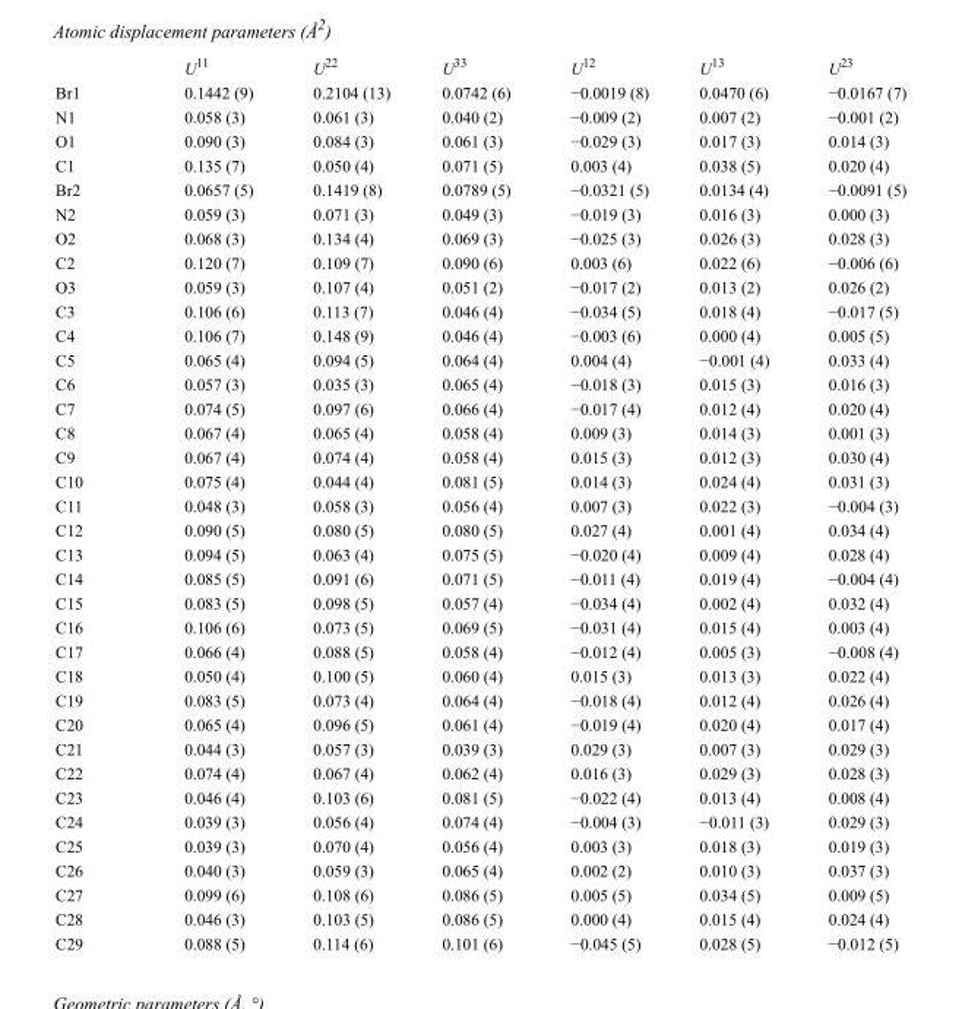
<table><thead><tr><td></td><td>U<sup>11</sup></td><td>U<sup>22</sup></td><td>U<sup>33</sup></td><td>U<sup>12</sup></td><td>U<sup>13</sup></td><td>U<sup>23</sup></td></tr></thead><tbody><tr><td>Br1</td><td>0.1442 (9)</td><td>0.2104 (13)</td><td>0.0742 (6)</td><td>−0.0019 (8)</td><td>0.0470 (6)</td><td>−0.0167 (7)</td></tr><tr><td>N1</td><td>0.058 (3)</td><td>0.061 (3)</td><td>0.040 (2)</td><td>−0.009 (2)</td><td>0.007 (2)</td><td>−0.001 (2)</td></tr><tr><td>O1</td><td>0.090 (3)</td><td>0.084 (3)</td><td>0.061 (3)</td><td>−0.029 (3)</td><td>0.017 (3)</td><td>0.014 (3)</td></tr><tr><td>C1</td><td>0.135 (7)</td><td>0.050 (4)</td><td>0.071 (5)</td><td>0.003 (4)</td><td>0.038 (5)</td><td>0.020 (4)</td></tr><tr><td>Br2</td><td>0.0657 (5)</td><td>0.1419 (8)</td><td>0.0789 (5)</td><td>−0.0321 (5)</td><td>0.0134 (4)</td><td>−0.0091 (5)</td></tr><tr><td>N2</td><td>0.059 (3)</td><td>0.071 (3)</td><td>0.049 (3)</td><td>−0.019 (3)</td><td>0.016 (3)</td><td>0.000 (3)</td></tr><tr><td>O2</td><td>0.068 (3)</td><td>0.134 (4)</td><td>0.069 (3)</td><td>−0.025 (3)</td><td>0.026 (3)</td><td>0.028 (3)</td></tr><tr><td>C2</td><td>0.120 (7)</td><td>0.109 (7)</td><td>0.090 (6)</td><td>0.003 (6)</td><td>0.022 (6)</td><td>−0.006 (6)</td></tr><tr><td>O3</td><td>0.059 (3)</td><td>0.107 (4)</td><td>0.051 (2)</td><td>−0.017 (2)</td><td>0.013 (2)</td><td>0.026 (2)</td></tr><tr><td>C3</td><td>0.106 (6)</td><td>0.113 (7)</td><td>0.046 (4)</td><td>−0.034 (5)</td><td>0.018 (4)</td><td>−0.017 (5)</td></tr><tr><td>C4</td><td>0.106 (7)</td><td>0.148 (9)</td><td>0.046 (4)</td><td>−0.003 (6)</td><td>0.000 (4)</td><td>0.005 (5)</td></tr><tr><td>C5</td><td>0.065 (4)</td><td>0.094 (5)</td><td>0.064 (4)</td><td>0.004 (4)</td><td>−0.001 (4)</td><td>0.033 (4)</td></tr><tr><td>C6</td><td>0.057 (3)</td><td>0.035 (3)</td><td>0.065 (4)</td><td>−0.018 (3)</td><td>0.015 (3)</td><td>0.016 (3)</td></tr><tr><td>C7</td><td>0.074 (5)</td><td>0.097 (6)</td><td>0.066 (4)</td><td>−0.017 (4)</td><td>0.012 (4)</td><td>0.020 (4)</td></tr><tr><td>C8</td><td>0.067 (4)</td><td>0.065 (4)</td><td>0.058 (4)</td><td>0.009 (3)</td><td>0.014 (3)</td><td>0.001 (3)</td></tr><tr><td>C9</td><td>0.067 (4)</td><td>0.074 (4)</td><td>0.058 (4)</td><td>0.015 (3)</td><td>0.012 (3)</td><td>0.030 (4)</td></tr><tr><td>C10</td><td>0.075 (4)</td><td>0.044 (4)</td><td>0.081 (5)</td><td>0.014 (3)</td><td>0.024 (4)</td><td>0.031 (3)</td></tr><tr><td>C11</td><td>0.048 (3)</td><td>0.058 (3)</td><td>0.056 (4)</td><td>0.007 (3)</td><td>0.022 (3)</td><td>−0.004 (3)</td></tr><tr><td>C12</td><td>0.090 (5)</td><td>0.080 (5)</td><td>0.080 (5)</td><td>0.027 (4)</td><td>0.001 (4)</td><td>0.034 (4)</td></tr><tr><td>C13</td><td>0.094 (5)</td><td>0.063 (4)</td><td>0.075 (5)</td><td>−0.020 (4)</td><td>0.009 (4)</td><td>0.028 (4)</td></tr><tr><td>C14</td><td>0.085 (5)</td><td>0.091 (6)</td><td>0.071 (5)</td><td>−0.011 (4)</td><td>0.019 (4)</td><td>−0.004 (4)</td></tr><tr><td>C15</td><td>0.083 (5)</td><td>0.098 (5)</td><td>0.057 (4)</td><td>−0.034 (4)</td><td>0.002 (4)</td><td>0.032 (4)</td></tr><tr><td>C16</td><td>0.106 (6)</td><td>0.073 (5)</td><td>0.069 (5)</td><td>−0.031 (4)</td><td>0.015 (4)</td><td>0.003 (4)</td></tr><tr><td>C17</td><td>0.066 (4)</td><td>0.088 (5)</td><td>0.058 (4)</td><td>−0.012 (4)</td><td>0.005 (3)</td><td>−0.008 (4)</td></tr><tr><td>C18</td><td>0.050 (4)</td><td>0.100 (5)</td><td>0.060 (4)</td><td>0.015 (3)</td><td>0.013 (3)</td><td>0.022 (4)</td></tr><tr><td>C19</td><td>0.083 (5)</td><td>0.073 (4)</td><td>0.064 (4)</td><td>−0.018 (4)</td><td>0.012 (4)</td><td>0.026 (4)</td></tr><tr><td>C20</td><td>0.065 (4)</td><td>0.096 (5)</td><td>0.061 (4)</td><td>−0.019 (4)</td><td>0.020 (4)</td><td>0.017 (4)</td></tr><tr><td>C21</td><td>0.044 (3)</td><td>0.057 (3)</td><td>0.039 (3)</td><td>0.029 (3)</td><td>0.007 (3)</td><td>0.029 (3)</td></tr><tr><td>C22</td><td>0.074 (4)</td><td>0.067 (4)</td><td>0.062 (4)</td><td>0.016 (3)</td><td>0.029 (3)</td><td>0.028 (3)</td></tr><tr><td>C23</td><td>0.046 (4)</td><td>0.103 (6)</td><td>0.081 (5)</td><td>−0.022 (4)</td><td>0.013 (4)</td><td>0.008 (4)</td></tr><tr><td>C24</td><td>0.039 (3)</td><td>0.056 (4)</td><td>0.074 (4)</td><td>−0.004 (3)</td><td>−0.011 (3)</td><td>0.029 (3)</td></tr><tr><td>C25</td><td>0.039 (3)</td><td>0.070 (4)</td><td>0.056 (4)</td><td>0.003 (3)</td><td>0.018 (3)</td><td>0.019 (3)</td></tr><tr><td>C26</td><td>0.040 (3)</td><td>0.059 (3)</td><td>0.065 (4)</td><td>0.002 (2)</td><td>0.010 (3)</td><td>0.037 (3)</td></tr><tr><td>C27</td><td>0.099 (6)</td><td>0.108 (6)</td><td>0.086 (5)</td><td>0.005 (5)</td><td>0.034 (5)</td><td>0.009 (5)</td></tr><tr><td>C28</td><td>0.046 (3)</td><td>0.103 (5)</td><td>0.086 (5)</td><td>0.000 (4)</td><td>0.015 (4)</td><td>0.024 (4)</td></tr><tr><td>C29</td><td>0.088 (5)</td><td>0.114 (6)</td><td>0.101 (6)</td><td>−0.045 (5)</td><td>0.028 (5)</td><td>−0.012 (5)</td></tr></tbody></table>